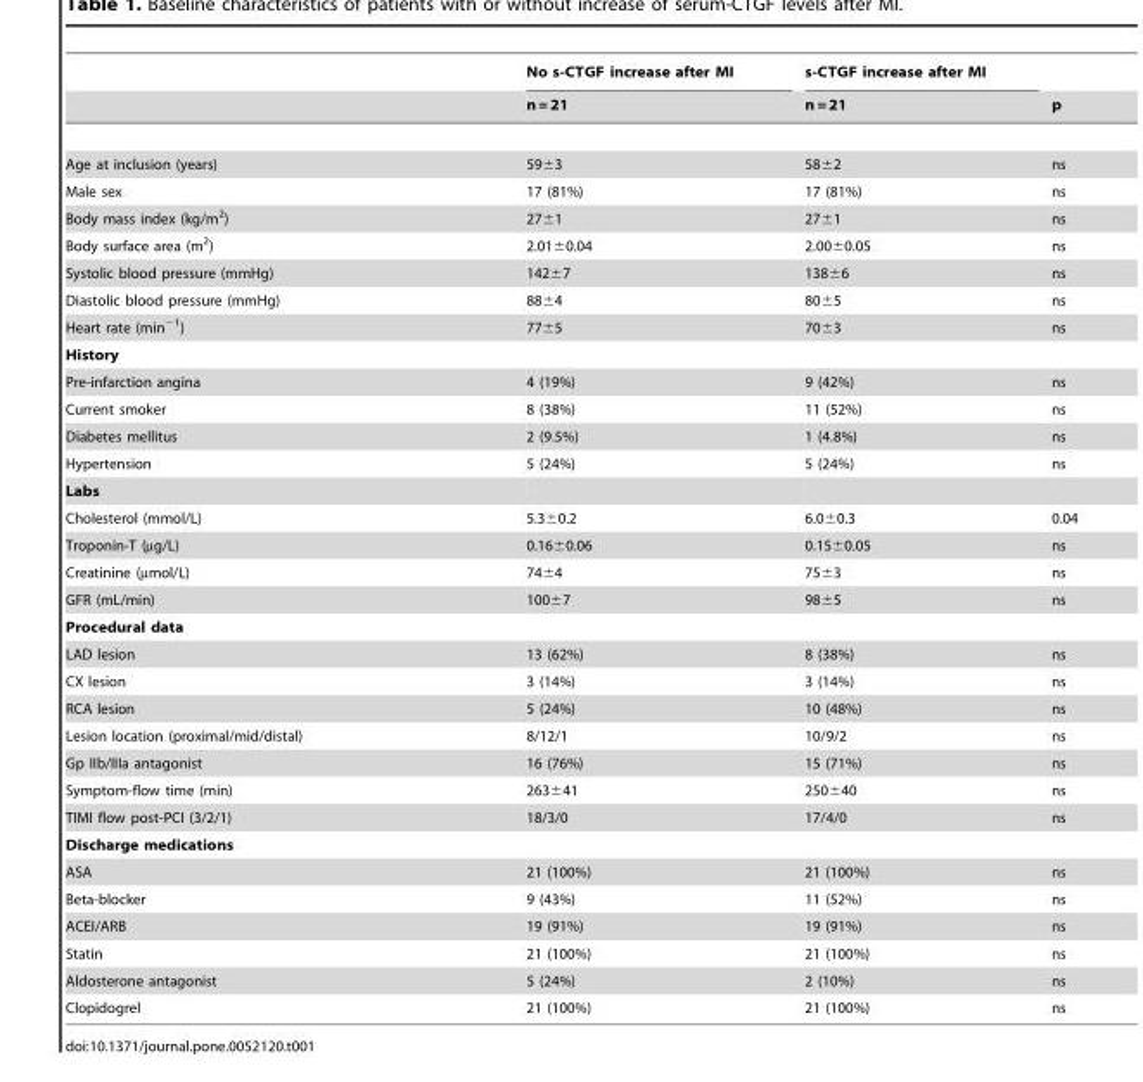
<table><thead><tr><td rowspan="2"></td><td rowspan="2">No s-CTGF increase after MI n = 21</td><td rowspan="2">s-CTGF increase after MI n = 21</td><td rowspan="2">p</td></tr><tr></tr></thead><tbody><tr><td>Age at inclusion (years)</td><td>59±3</td><td>58±2</td><td>ns</td></tr><tr><td>Male sex</td><td>17 (81%)</td><td>17 (81%)</td><td>ns</td></tr><tr><td>Body mass index (kg/m<sup>2</sup>)</td><td>27±1</td><td>27±1</td><td>ns</td></tr><tr><td>Body surface area (m<sup>2</sup>)</td><td>2.01±0.04</td><td>2.00±0.05</td><td>ns</td></tr><tr><td>Systolic blood pressure (mmHg)</td><td>142±7</td><td>138±6</td><td>ns</td></tr><tr><td>Diastolic blood pressure (mmHg)</td><td>88±4</td><td>80±5</td><td>ns</td></tr><tr><td>Heart rate (min<sup>−1</sup>)</td><td>77±5</td><td>70±3</td><td>ns</td></tr><tr><td colspan="4">History</td></tr><tr><td>Pre-infarction angina</td><td>4 (19%)</td><td>9 (42%)</td><td>ns</td></tr><tr><td>Current smoker</td><td>8 (38%)</td><td>11 (52%)</td><td>ns</td></tr><tr><td>Diabetes mellitus</td><td>2 (9.5%)</td><td>1 (4.8%)</td><td>ns</td></tr><tr><td>Hypertension</td><td>5 (24%)</td><td>5 (24%)</td><td>ns</td></tr><tr><td colspan="4">Labs</td></tr><tr><td>Cholesterol (mmol/L)</td><td>5.3±0.2</td><td>6.0±0.3</td><td>0.04</td></tr><tr><td>Troponin-T (µg/L)</td><td>0.16±0.06</td><td>0.15±0.05</td><td>ns</td></tr><tr><td>Creatinine (µmol/L)</td><td>74±4</td><td>75±3</td><td>ns</td></tr><tr><td>GFR (mL/min)</td><td>100±7</td><td>98±5</td><td>ns</td></tr><tr><td colspan="4">Procedural data</td></tr><tr><td>LAD lesion</td><td>13 (62%)</td><td>8 (38%)</td><td>ns</td></tr><tr><td>CX lesion</td><td>3 (14%)</td><td>3 (14%)</td><td>ns</td></tr><tr><td>RCA lesion</td><td>5 (24%)</td><td>10 (48%)</td><td>ns</td></tr><tr><td>Lesion location (proximal/mid/distal)</td><td>8/12/1</td><td>10/9/2</td><td>ns</td></tr><tr><td>Gp IIb/IIIa antagonist</td><td>16 (76%)</td><td>15 (71%)</td><td>ns</td></tr><tr><td>Symptom-flow time (min)</td><td>263±41</td><td>250±40</td><td>ns</td></tr><tr><td>TIMI flow post-PCI (3/2/1)</td><td>18/3/0</td><td>17/4/0</td><td>ns</td></tr><tr><td colspan="4">Discharge medications</td></tr><tr><td>ASA</td><td>21 (100%)</td><td>21 (100%)</td><td>ns</td></tr><tr><td>Beta-blocker</td><td>9 (43%)</td><td>11 (52%)</td><td>ns</td></tr><tr><td>ACEI/ARB</td><td>19 (91%)</td><td>19 (91%)</td><td>ns</td></tr><tr><td>Statin</td><td>21 (100%)</td><td>21 (100%)</td><td>ns</td></tr><tr><td>Aldosterone antagonist</td><td>5 (24%)</td><td>2 (10%)</td><td>ns</td></tr><tr><td>Clopidogrel</td><td>21 (100%)</td><td>21 (100%)</td><td>ns</td></tr></tbody></table>